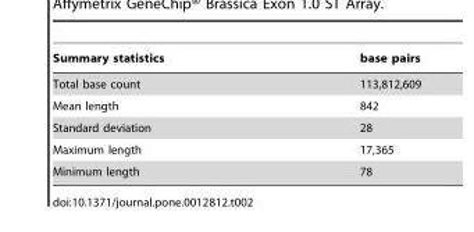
<table><thead><tr><td>Summary statistics</td><td>base pairs</td></tr></thead><tbody><tr><td>Total base count</td><td>113,812,609</td></tr><tr><td>Mean length</td><td>842</td></tr><tr><td>Standard deviation</td><td>28</td></tr><tr><td>Maximum length</td><td>17,365</td></tr><tr><td>Minimum length</td><td>78</td></tr></tbody></table>